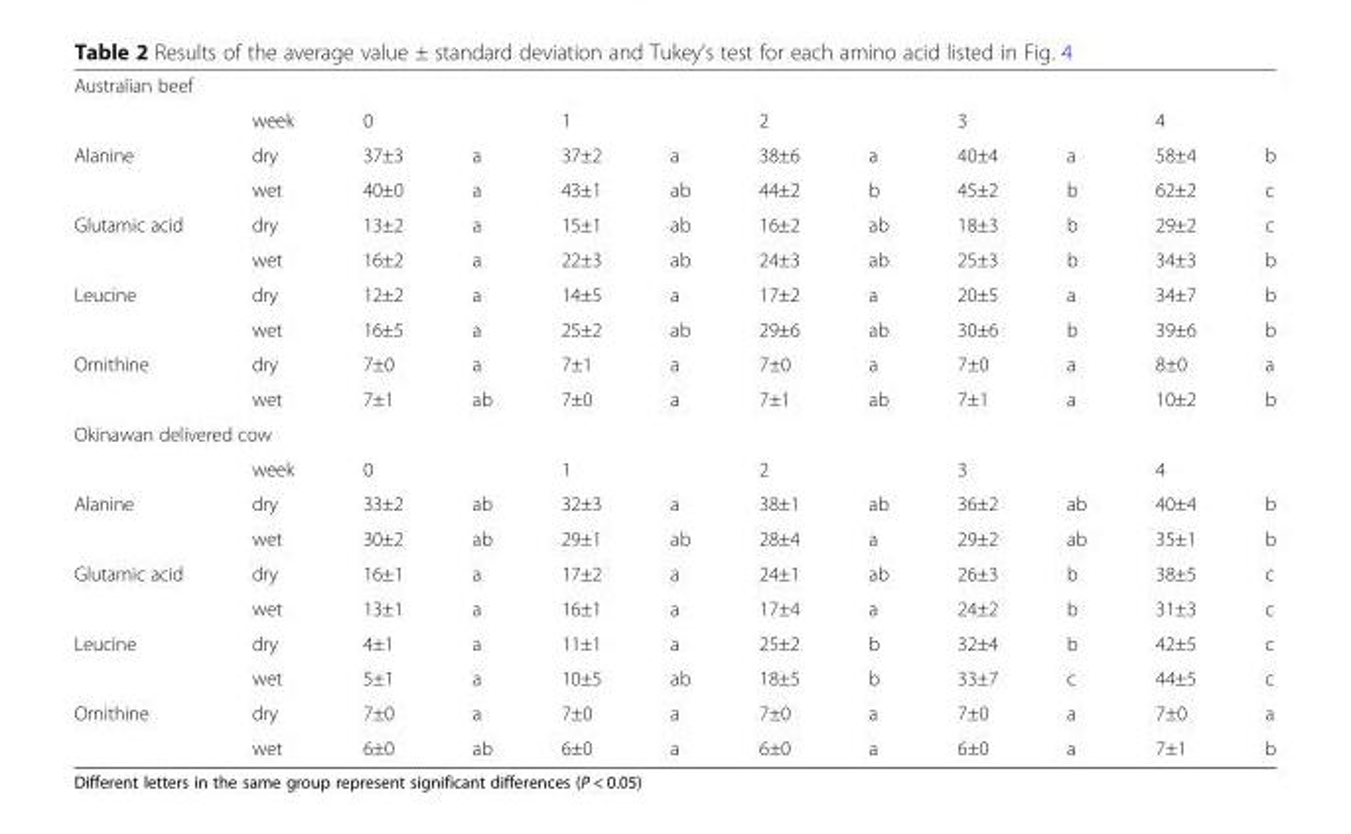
<table><tbody><tr><td colspan="12">Australian beef</td></tr><tr><td></td><td>week</td><td colspan="2">0</td><td colspan="2">1</td><td colspan="2">2</td><td colspan="2">3</td><td colspan="2">4</td></tr><tr><td rowspan="2">Alanine</td><td>dry</td><td>37±3</td><td>a</td><td>37±2</td><td>a</td><td>38±6</td><td>a</td><td>40±4</td><td>a</td><td>58±4</td><td>b</td></tr><tr><td>wet</td><td>40±0</td><td>a</td><td>43±1</td><td>ab</td><td>44±2</td><td>b</td><td>45±2</td><td>b</td><td>62±2</td><td>c</td></tr><tr><td rowspan="2">Glutamic acid</td><td>dry</td><td>13±2</td><td>a</td><td>15±1</td><td>ab</td><td>16±2</td><td>ab</td><td>18±3</td><td>b</td><td>29±2</td><td>c</td></tr><tr><td>wet</td><td>16±2</td><td>a</td><td>22±3</td><td>ab</td><td>24±3</td><td>ab</td><td>25±3</td><td>b</td><td>34±3</td><td>b</td></tr><tr><td rowspan="2">Leucine</td><td>dry</td><td>12±2</td><td>a</td><td>14±5</td><td>a</td><td>17±2</td><td>a</td><td>20±5</td><td>a</td><td>34±7</td><td>b</td></tr><tr><td>wet</td><td>16±5</td><td>a</td><td>25±2</td><td>ab</td><td>29±6</td><td>ab</td><td>30±6</td><td>b</td><td>39±6</td><td>b</td></tr><tr><td rowspan="2">Ornithine</td><td>dry</td><td>7±0</td><td>a</td><td>7±1</td><td>a</td><td>7±0</td><td>a</td><td>7±0</td><td>a</td><td>8±0</td><td>a</td></tr><tr><td>wet</td><td>7±1</td><td>ab</td><td>7±0</td><td>a</td><td>7±1</td><td>ab</td><td>7±1</td><td>a</td><td>10±2</td><td>b</td></tr><tr><td colspan="12">Okinawan delivered cow</td></tr><tr><td></td><td>week</td><td colspan="2">0</td><td colspan="2">1</td><td colspan="2">2</td><td colspan="2">3</td><td colspan="2">4</td></tr><tr><td rowspan="2">Alanine</td><td>dry</td><td>33±2</td><td>ab</td><td>32±3</td><td>a</td><td>38±1</td><td>ab</td><td>36±2</td><td>ab</td><td>40±4</td><td>b</td></tr><tr><td>wet</td><td>30±2</td><td>ab</td><td>29±1</td><td>ab</td><td>28±4</td><td>a</td><td>29±2</td><td>ab</td><td>35±1</td><td>b</td></tr><tr><td rowspan="2">Glutamic acid</td><td>dry</td><td>16±1</td><td>a</td><td>17±2</td><td>a</td><td>24±1</td><td>ab</td><td>26±3</td><td>b</td><td>38±5</td><td>c</td></tr><tr><td>wet</td><td>13±1</td><td>a</td><td>16±1</td><td>a</td><td>17±4</td><td>a</td><td>24±2</td><td>b</td><td>31±3</td><td>c</td></tr><tr><td rowspan="2">Leucine</td><td>dry</td><td>4±1</td><td>a</td><td>11±1</td><td>a</td><td>25±2</td><td>b</td><td>32±4</td><td>b</td><td>42±5</td><td>c</td></tr><tr><td>wet</td><td>5±1</td><td>a</td><td>10±5</td><td>ab</td><td>18±5</td><td>b</td><td>33±7</td><td>c</td><td>44±5</td><td>c</td></tr><tr><td rowspan="2">Ornithine</td><td>dry</td><td>7±0</td><td>a</td><td>7±0</td><td>a</td><td>7±0</td><td>a</td><td>7±0</td><td>a</td><td>7±0</td><td>a</td></tr><tr><td>wet</td><td>6±0</td><td>ab</td><td>6±0</td><td>a</td><td>6±0</td><td>a</td><td>6±0</td><td>a</td><td>7±1</td><td>b</td></tr></tbody></table>